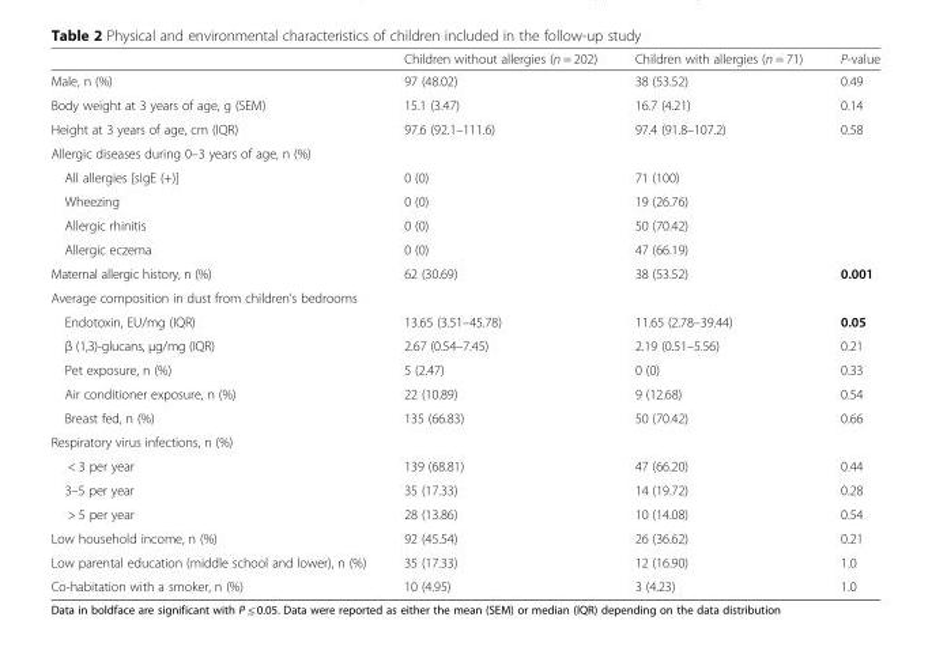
<table><thead><tr><td></td><td>Children without allergies (n = 202)</td><td>Children with allergies (n = 71)</td><td>P-value</td></tr></thead><tbody><tr><td>Male, n (%)</td><td>97 (48.02)</td><td>38 (53.52)</td><td>0.49</td></tr><tr><td>Body weight at 3 years of age, g (SEM)</td><td>15.1 (3.47)</td><td>16.7 (4.21)</td><td>0.14</td></tr><tr><td>Height at 3 years of age, cm (IQR)</td><td>97.6 (92.1–111.6)</td><td>97.4 (91.8–107.2)</td><td>0.58</td></tr><tr><td colspan="4">Allergic diseases during 0–3 years of age, n (%)</td></tr><tr><td>All allergies [sIgE (+)]</td><td>0 (0)</td><td>71 (100)</td><td></td></tr><tr><td>Wheezing</td><td>0 (0)</td><td>19 (26.76)</td><td></td></tr><tr><td>Allergic rhinitis</td><td>0 (0)</td><td>50 (70.42)</td><td></td></tr><tr><td>Allergic eczema</td><td>0 (0)</td><td>47 (66.19)</td><td></td></tr><tr><td>Maternal allergic history, n (%)</td><td>62 (30.69)</td><td>38 (53.52)</td><td>0.001</td></tr><tr><td colspan="4">Average composition in dust from children’s bedrooms</td></tr><tr><td>Endotoxin, EU/mg (IQR)</td><td>13.65 (3.51–45.78)</td><td>11.65 (2.78–39.44)</td><td>0.05</td></tr><tr><td>β (1,3)-glucans, μg/mg (IQR)</td><td>2.67 (0.54–7.45)</td><td>2.19 (0.51–5.56)</td><td>0.21</td></tr><tr><td>Pet exposure, n (%)</td><td>5 (2.47)</td><td>0 (0)</td><td>0.33</td></tr><tr><td>Air conditioner exposure, n (%)</td><td>22 (10.89)</td><td>9 (12.68)</td><td>0.54</td></tr><tr><td>Breast fed, n (%)</td><td>135 (66.83)</td><td>50 (70.42)</td><td>0.66</td></tr><tr><td colspan="4">Respiratory virus infections, n (%)</td></tr><tr><td>&lt; 3 per year</td><td>139 (68.81)</td><td>47 (66.20)</td><td>0.44</td></tr><tr><td>3–5 per year</td><td>35 (17.33)</td><td>14 (19.72)</td><td>0.28</td></tr><tr><td>&gt; 5 per year</td><td>28 (13.86)</td><td>10 (14.08)</td><td>0.54</td></tr><tr><td>Low household income, n (%)</td><td>92 (45.54)</td><td>26 (36.62)</td><td>0.21</td></tr><tr><td>Low parental education (middle school and lower), n (%)</td><td>35 (17.33)</td><td>12 (16.90)</td><td>1.0</td></tr><tr><td>Co-habitation with a smoker, n (%)</td><td>10 (4.95)</td><td>3 (4.23)</td><td>1.0</td></tr></tbody></table>